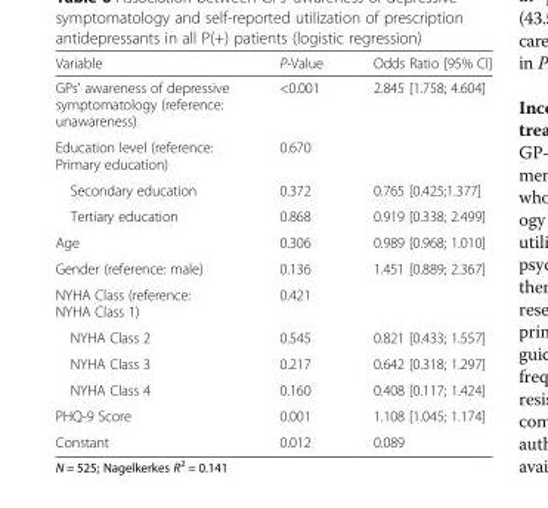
<table><thead><tr><td>Variable</td><td>P-Value</td><td>Odds Ratio [95% CI]</td></tr></thead><tbody><tr><td>GPs&#x27; awareness of depressive symptomatology (reference: unawareness)</td><td>&lt;0.001</td><td>2.845 [1.758; 4.604]</td></tr><tr><td>Education level (reference: Primary education)</td><td>0.670</td><td></td></tr><tr><td>Secondary education</td><td>0.372</td><td>0.765 [0.425;1.377]</td></tr><tr><td>Tertiary education</td><td>0.868</td><td>0.919 [0.338; 2.499]</td></tr><tr><td>Age</td><td>0.306</td><td>0.989 [0.968; 1.010]</td></tr><tr><td>Gender (reference: male)</td><td>0.136</td><td>1.451 [0.889; 2.367]</td></tr><tr><td>NYHA Class (reference: NYHA Class 1)</td><td>0.421</td><td></td></tr><tr><td>NYHA Class 2</td><td>0.545</td><td>0.821 [0.433; 1.557]</td></tr><tr><td>NYHA Class 3</td><td>0.217</td><td>0.642 [0.318; 1.297]</td></tr><tr><td>NYHA Class 4</td><td>0.160</td><td>0.408 [0.117; 1.424]</td></tr><tr><td>PHQ-9 Score</td><td>0.001</td><td>1.108 [1.045; 1.174]</td></tr><tr><td>Constant</td><td>0.012</td><td>0.089</td></tr></tbody></table>